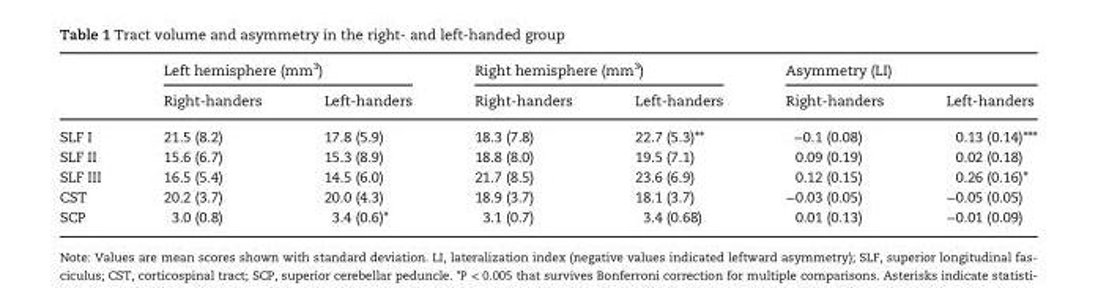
<table><thead><tr><td rowspan="2"></td><td colspan="2">Left hemisphere (mm<sup>3</sup>)</td><td colspan="2">Right hemisphere (mm<sup>3</sup>)</td><td colspan="2">Asymmetry (LI)</td></tr><tr><td>Right-handers</td><td>Left-handers</td><td>Right-handers</td><td>Left-handers</td><td>Right-handers</td><td>Left-handers</td></tr></thead><tbody><tr><td>SLF I</td><td>21.5 (8.2)</td><td>17.8 (5.9)</td><td>18.3 (7.8)</td><td>22.7 (5.3)**</td><td>−0.1 (0.08)</td><td>0.13 (0.14)***</td></tr><tr><td>SLF II</td><td>15.6 (6.7)</td><td>15.3 (8.9)</td><td>18.8 (8.0)</td><td>19.5 (7.1)</td><td>0.09 (0.19)</td><td>0.02 (0.18)</td></tr><tr><td>SLF III</td><td>16.5 (5.4)</td><td>14.5 (6.0)</td><td>21.7 (8.5)</td><td>23.6 (6.9)</td><td>0.12 (0.15)</td><td>0.26 (0.16)*</td></tr><tr><td>CST</td><td>20.2 (3.7)</td><td>20.0 (4.3)</td><td>18.9 (3.7)</td><td>18.1 (3.7)</td><td>−0.03 (0.05)</td><td>−0.05 (0.05)</td></tr><tr><td>SCP</td><td>3.0 (0.8)</td><td>3.4 (0.6)*</td><td>3.1 (0.7)</td><td>3.4 (0.68)</td><td>0.01 (0.13)</td><td>−0.01 (0.09)</td></tr></tbody></table>